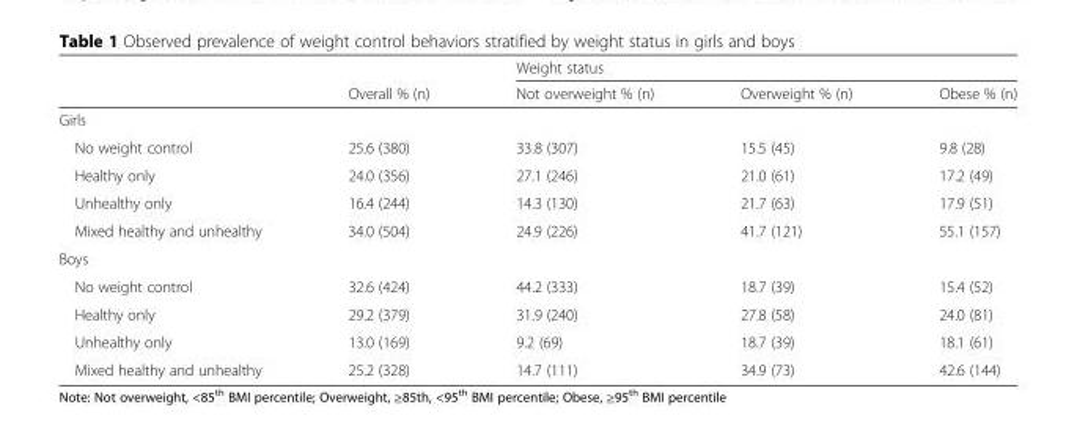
<table><thead><tr><td rowspan="2"></td><td rowspan="2">Overall % (n)</td><td colspan="3">Weight status</td></tr><tr><td>Not overweight % (n)</td><td>Overweight % (n)</td><td>Obese % (n)</td></tr></thead><tbody><tr><td colspan="5">Girls</td></tr><tr><td>No weight control</td><td>25.6 (380)</td><td>33.8 (307)</td><td>15.5 (45)</td><td>9.8 (28)</td></tr><tr><td>Healthy only</td><td>24.0 (356)</td><td>27.1 (246)</td><td>21.0 (61)</td><td>17.2 (49)</td></tr><tr><td>Unhealthy only</td><td>16.4 (244)</td><td>14.3 (130)</td><td>21.7 (63)</td><td>17.9 (51)</td></tr><tr><td>Mixed healthy and unhealthy</td><td>34.0 (504)</td><td>24.9 (226)</td><td>41.7 (121)</td><td>55.1 (157)</td></tr><tr><td colspan="5">Boys</td></tr><tr><td>No weight control</td><td>32.6 (424)</td><td>44.2 (333)</td><td>18.7 (39)</td><td>15.4 (52)</td></tr><tr><td>Healthy only</td><td>29.2 (379)</td><td>31.9 (240)</td><td>27.8 (58)</td><td>24.0 (81)</td></tr><tr><td>Unhealthy only</td><td>13.0 (169)</td><td>9.2 (69)</td><td>18.7 (39)</td><td>18.1 (61)</td></tr><tr><td>Mixed healthy and unhealthy</td><td>25.2 (328)</td><td>14.7 (111)</td><td>34.9 (73)</td><td>42.6 (144)</td></tr></tbody></table>